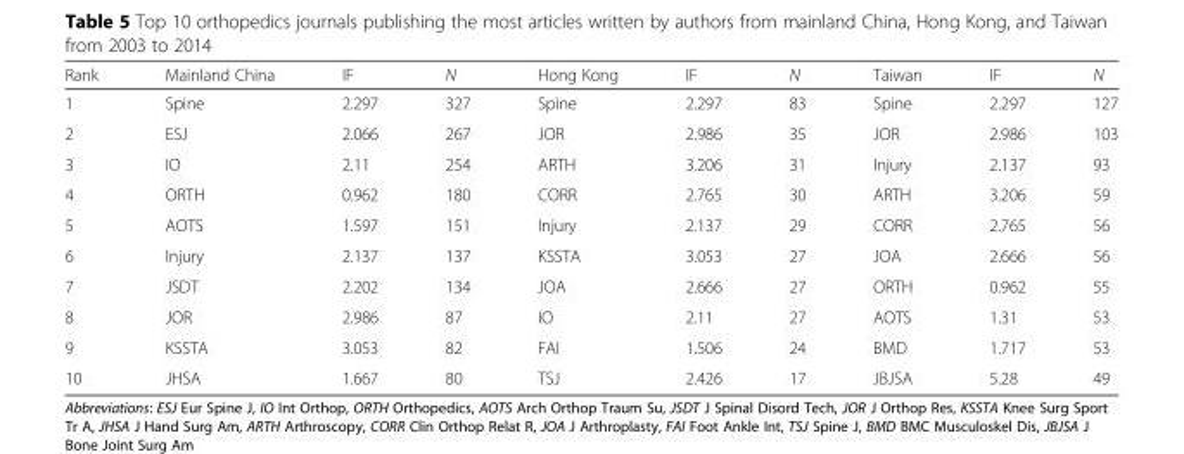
<table><thead><tr><td>Rank</td><td>Mainland China</td><td>IF</td><td>N</td><td>Hong Kong</td><td>IF</td><td>N</td><td>Taiwan</td><td>IF</td><td>N</td></tr></thead><tbody><tr><td>1</td><td>Spine</td><td>2.297</td><td>327</td><td>Spine</td><td>2.297</td><td>83</td><td>Spine</td><td>2.297</td><td>127</td></tr><tr><td>2</td><td>ESJ</td><td>2.066</td><td>267</td><td>JOR</td><td>2.986</td><td>35</td><td>JOR</td><td>2.986</td><td>103</td></tr><tr><td>3</td><td>IO</td><td>2.11</td><td>254</td><td>ARTH</td><td>3.206</td><td>31</td><td>Injury</td><td>2.137</td><td>93</td></tr><tr><td>4</td><td>ORTH</td><td>0.962</td><td>180</td><td>CORR</td><td>2.765</td><td>30</td><td>ARTH</td><td>3.206</td><td>59</td></tr><tr><td>5</td><td>AOTS</td><td>1.597</td><td>151</td><td>Injury</td><td>2.137</td><td>29</td><td>CORR</td><td>2.765</td><td>56</td></tr><tr><td>6</td><td>Injury</td><td>2.137</td><td>137</td><td>KSSTA</td><td>3.053</td><td>27</td><td>JOA</td><td>2.666</td><td>56</td></tr><tr><td>7</td><td>JSDT</td><td>2.202</td><td>134</td><td>JOA</td><td>2.666</td><td>27</td><td>ORTH</td><td>0.962</td><td>55</td></tr><tr><td>8</td><td>JOR</td><td>2.986</td><td>87</td><td>IO</td><td>2.11</td><td>27</td><td>AOTS</td><td>1.31</td><td>53</td></tr><tr><td>9</td><td>KSSTA</td><td>3.053</td><td>82</td><td>FAI</td><td>1.506</td><td>24</td><td>BMD</td><td>1.717</td><td>53</td></tr><tr><td>10</td><td>JHSA</td><td>1.667</td><td>80</td><td>TSJ</td><td>2.426</td><td>17</td><td>JBJSA</td><td>5.28</td><td>49</td></tr></tbody></table>